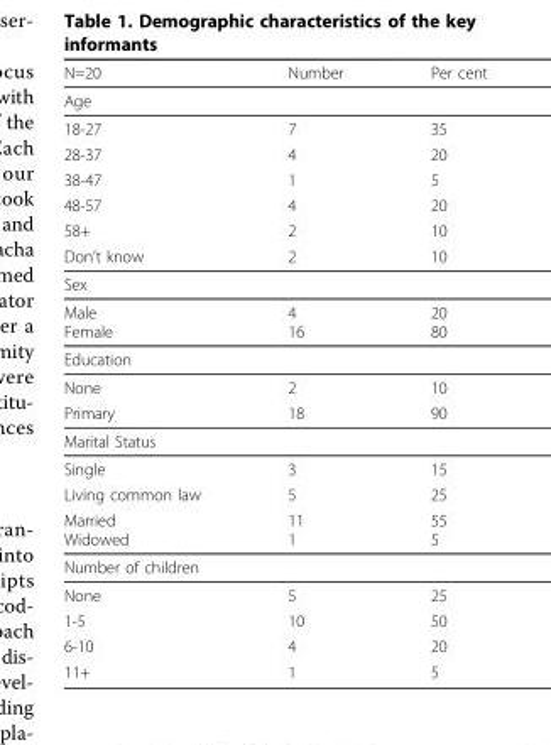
<table><thead><tr><td>N=20</td><td>Number</td><td>Per cent</td></tr></thead><tbody><tr><td colspan="3">Age</td></tr><tr><td>18-27</td><td>7</td><td>35</td></tr><tr><td>28-37</td><td>4</td><td>20</td></tr><tr><td>38-47</td><td>1</td><td>5</td></tr><tr><td>48-57</td><td>4</td><td>20</td></tr><tr><td>58+</td><td>2</td><td>10</td></tr><tr><td>Don’t know</td><td>2</td><td>10</td></tr><tr><td colspan="3">Sex</td></tr><tr><td>Male Female</td><td>4 16</td><td>20 80</td></tr><tr><td colspan="3">Education</td></tr><tr><td>None</td><td>2</td><td>10</td></tr><tr><td>Primary</td><td>18</td><td>90</td></tr><tr><td colspan="3">Marital Status</td></tr><tr><td>Single</td><td>3</td><td>15</td></tr><tr><td>Living common law</td><td>5</td><td>25</td></tr><tr><td>Married Widowed</td><td>11 1</td><td>55 5</td></tr><tr><td colspan="3">Number of children</td></tr><tr><td>None</td><td>5</td><td>25</td></tr><tr><td>1-5</td><td>10</td><td>50</td></tr><tr><td>6-10</td><td>4</td><td>20</td></tr><tr><td>11+</td><td>1</td><td>5</td></tr></tbody></table>